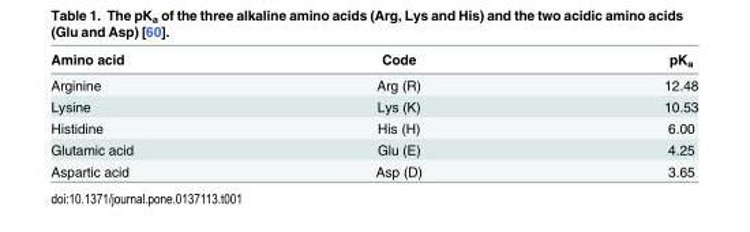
<table><thead><tr><td>Amino acid</td><td>Code</td><td>pK<sub>a</sub></td></tr></thead><tbody><tr><td>Arginine</td><td>Arg (R)</td><td>12.48</td></tr><tr><td>Lysine</td><td>Lys (K)</td><td>10.53</td></tr><tr><td>Histidine</td><td>His (H)</td><td>6.00</td></tr><tr><td>Glutamic acid</td><td>Glu (E)</td><td>4.25</td></tr><tr><td>Aspartic acid</td><td>Asp (D)</td><td>3.65</td></tr></tbody></table>